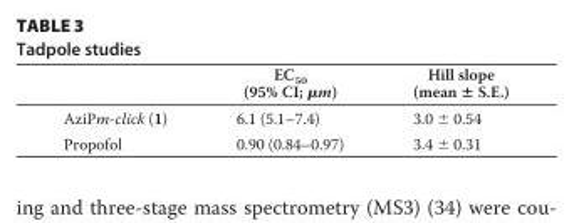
<table><thead><tr><td></td><td>EC<sub>50</sub> (95% CI; μm)</td><td>Hill slope (mean ± S.E.)</td></tr></thead><tbody><tr><td>AziPm-click (1)</td><td>6.1 (5.1–7.4)</td><td>3.0 ± 0.54</td></tr><tr><td>Propofol</td><td>0.90 (0.84–0.97)</td><td>3.4 ± 0.31</td></tr></tbody></table>